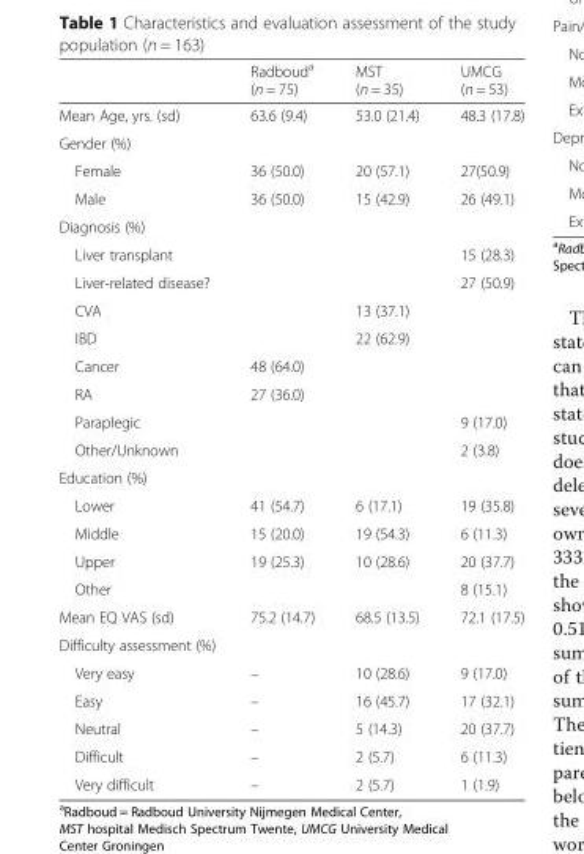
<table><thead><tr><td></td><td>Radboud<sup>a</sup> (n = 75)</td><td>MST (n = 35)</td><td>UMCG (n = 53)</td></tr></thead><tbody><tr><td>Mean Age, yrs. (sd)</td><td>63.6 (9.4)</td><td>53.0 (21.4)</td><td>48.3 (17.8)</td></tr><tr><td colspan="4">Gender (%)</td></tr><tr><td>Female</td><td>36 (50.0)</td><td>20 (57.1)</td><td>27(50.9)</td></tr><tr><td>Male</td><td>36 (50.0)</td><td>15 (42.9)</td><td>26 (49.1)</td></tr><tr><td colspan="4">Diagnosis (%)</td></tr><tr><td>Liver transplant</td><td></td><td></td><td>15 (28.3)</td></tr><tr><td>Liver-related disease?</td><td></td><td></td><td>27 (50.9)</td></tr><tr><td>CVA</td><td></td><td>13 (37.1)</td><td></td></tr><tr><td>IBD</td><td></td><td>22 (62.9)</td><td></td></tr><tr><td>Cancer</td><td>48 (64.0)</td><td></td><td></td></tr><tr><td>RA</td><td>27 (36.0)</td><td></td><td></td></tr><tr><td>Paraplegic</td><td></td><td></td><td>9 (17.0)</td></tr><tr><td>Other/Unknown</td><td></td><td></td><td>2 (3.8)</td></tr><tr><td colspan="4">Education (%)</td></tr><tr><td>Lower</td><td>41 (54.7)</td><td>6 (17.1)</td><td>19 (35.8)</td></tr><tr><td>Middle</td><td>15 (20.0)</td><td>19 (54.3)</td><td>6 (11.3)</td></tr><tr><td>Upper</td><td>19 (25.3)</td><td>10 (28.6)</td><td>20 (37.7)</td></tr><tr><td>Other</td><td></td><td></td><td>8 (15.1)</td></tr><tr><td>Mean EQ VAS (sd)</td><td>75.2 (14.7)</td><td>68.5 (13.5)</td><td>72.1 (17.5)</td></tr><tr><td colspan="4">Difficulty assessment (%)</td></tr><tr><td>Very easy</td><td>–</td><td>10 (28.6)</td><td>9 (17.0)</td></tr><tr><td>Easy</td><td>–</td><td>16 (45.7)</td><td>17 (32.1)</td></tr><tr><td>Neutral</td><td>–</td><td>5 (14.3)</td><td>20 (37.7)</td></tr><tr><td>Difficult</td><td>–</td><td>2 (5.7)</td><td>6 (11.3)</td></tr><tr><td>Very difficult</td><td>–</td><td>2 (5.7)</td><td>1 (1.9)</td></tr></tbody></table>